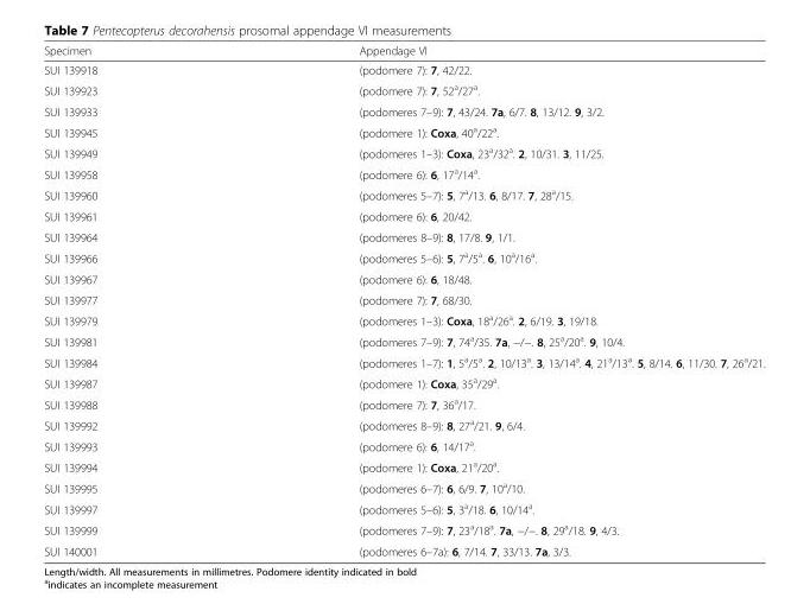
<table><thead><tr><td>Specimen</td><td>Appendage VI</td></tr></thead><tbody><tr><td>SUI 139918</td><td>(podomere 7): 7, 42/22.</td></tr><tr><td>SUI 139923</td><td>(podomere 7): 7, 52<sup>a</sup>/27<sup>a</sup>.</td></tr><tr><td>SUI 139933</td><td>(podomeres 7–9): 7, 43/24. 7a, 6/7. 8, 13/12. 9, 3/2.</td></tr><tr><td>SUI 139945</td><td>(podomere 1): Coxa, 40<sup>a</sup>/22<sup>a</sup>.</td></tr><tr><td>SUI 139949</td><td>(podomeres 1–3): Coxa, 23<sup>a</sup>/32<sup>a</sup>. 2, 10/31. 3, 11/25.</td></tr><tr><td>SUI 139958</td><td>(podomere 6): 6, 17<sup>a</sup>/14<sup>a</sup>.</td></tr><tr><td>SUI 139960</td><td>(podomeres 5–7): 5, 7<sup>a</sup>/13. 6, 8/17. 7, 28<sup>a</sup>/15.</td></tr><tr><td>SUI 139961</td><td>(podomere 6): 6, 20/42.</td></tr><tr><td>SUI 139964</td><td>(podomeres 8–9): 8, 17/8. 9, 1/1.</td></tr><tr><td>SUI 139966</td><td>(podomeres 5–6): 5, 7<sup>a</sup>/5<sup>a</sup>. 6, 10<sup>a</sup>/16<sup>a</sup>.</td></tr><tr><td>SUI 139967</td><td>(podomere 6): 6, 18/48.</td></tr><tr><td>SUI 139977</td><td>(podomere 7): 7, 68/30.</td></tr><tr><td>SUI 139979</td><td>(podomeres 1–3): Coxa, 18<sup>a</sup>/26<sup>a</sup>. 2, 6/19. 3, 19/18.</td></tr><tr><td>SUI 139981</td><td>(podomeres 7–9): 7, 74<sup>a</sup>/35. 7a, −/−. 8, 25<sup>a</sup>/20<sup>a</sup>. 9, 10/4.</td></tr><tr><td>SUI 139984</td><td>(podomeres 1–7): 1, 5<sup>a</sup>/5<sup>a</sup>. 2, 10/13<sup>a</sup>. 3, 13/14<sup>a</sup>. 4, 21<sup>a</sup>/13<sup>a</sup>. 5, 8/14. 6, 11/30. 7, 26<sup>a</sup>/21.</td></tr><tr><td>SUI 139987</td><td>(podomere 1): Coxa, 35<sup>a</sup>/29<sup>a</sup>.</td></tr><tr><td>SUI 139988</td><td>(podomere 7): 7, 36<sup>a</sup>/17.</td></tr><tr><td>SUI 139992</td><td>(podomeres 8–9): 8, 27<sup>a</sup>/21. 9, 6/4.</td></tr><tr><td>SUI 139993</td><td>(podomere 6): 6, 14/17<sup>a</sup>.</td></tr><tr><td>SUI 139994</td><td>(podomere 1): Coxa, 21<sup>a</sup>/20<sup>a</sup>.</td></tr><tr><td>SUI 139995</td><td>(podomeres 6–7): 6, 6/9. 7, 10<sup>a</sup>/10.</td></tr><tr><td>SUI 139997</td><td>(podomeres 5–6): 5, 3<sup>a</sup>/18. 6, 10/14<sup>a</sup>.</td></tr><tr><td>SUI 139999</td><td>(podomeres 7–9): 7, 23<sup>a</sup>/18<sup>a</sup>. 7a, −/−. 8, 29<sup>a</sup>/18. 9, 4/3.</td></tr><tr><td>SUI 140001</td><td>(podomeres 6–7a): 6, 7/14. 7, 33/13. 7a, 3/3.</td></tr></tbody></table>